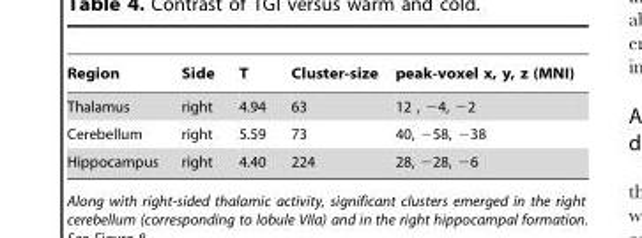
<table><thead><tr><td>Region</td><td>Side</td><td>T</td><td>Cluster-size</td><td>peak-voxel x, y, z (MNI)</td></tr></thead><tbody><tr><td>Thalamus</td><td>right</td><td>4.94</td><td>63</td><td>12 , −4, −2</td></tr><tr><td>Cerebellum</td><td>right</td><td>5.59</td><td>73</td><td>40, −58, −38</td></tr><tr><td>Hippocampus</td><td>right</td><td>4.40</td><td>224</td><td>28, −28, −6</td></tr></tbody></table>